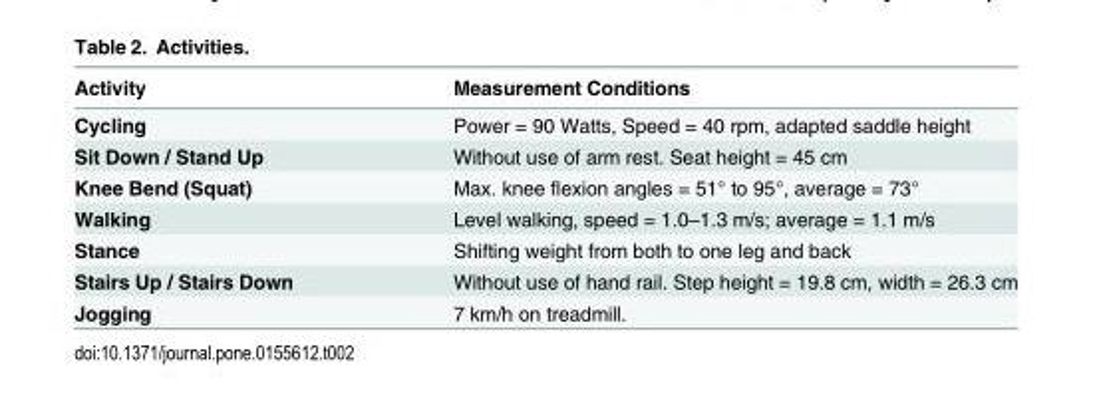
<table><thead><tr><td>Activity</td><td>Measurement Conditions</td></tr></thead><tbody><tr><td>Cycling</td><td>Power = 90 Watts, Speed = 40 rpm, adapted saddle height</td></tr><tr><td>Sit Down / Stand Up</td><td>Without use of arm rest. Seat height = 45 cm</td></tr><tr><td>Knee Bend (Squat)</td><td>Max. knee flexion angles = 51° to 95°, average = 73°</td></tr><tr><td>Walking</td><td>Level walking, speed = 1.0–1.3 m/s; average = 1.1 m/s</td></tr><tr><td>Stance</td><td>Shifting weight from both to one leg and back</td></tr><tr><td>Stairs Up / Stairs Down</td><td>Without use of hand rail. Step height = 19.8 cm, width = 26.3 cm</td></tr><tr><td>Jogging</td><td>7 km/h on treadmill.</td></tr></tbody></table>